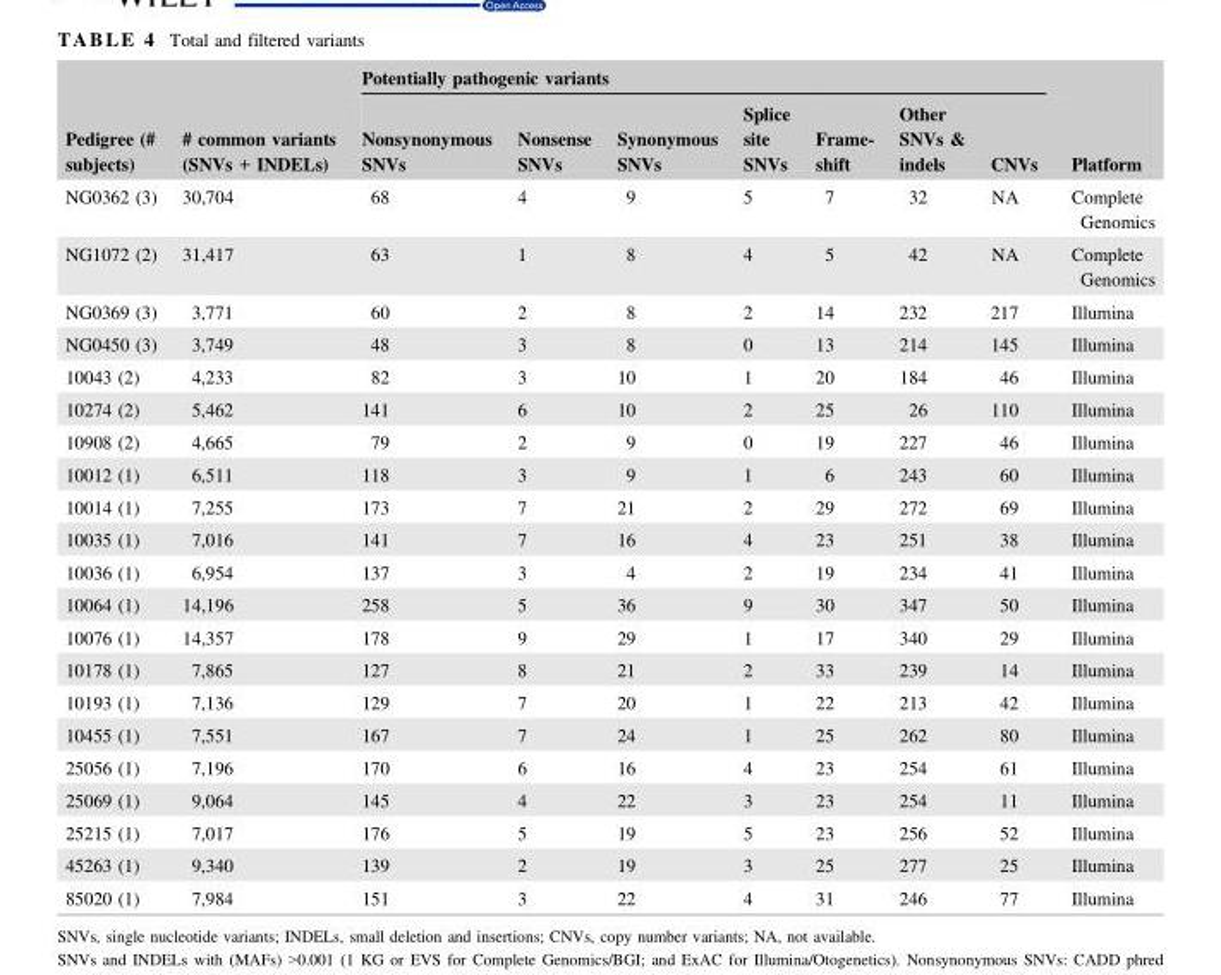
<table><thead><tr><td rowspan="2">Pedigree (# subjects)</td><td rowspan="2"># common variants (SNVs + INDELs)</td><td colspan="7">Potentially pathogenic variants</td><td rowspan="2">Platform</td></tr><tr><td>Nonsynonymous SNVs</td><td>Nonsense SNVs</td><td>Synonymous SNVs</td><td>Splice site SNVs</td><td>Frame- shift</td><td>Other SNVs &amp; indels</td><td>CNVs</td></tr></thead><tbody><tr><td>NG0362 (3)</td><td>30,704</td><td>68</td><td>4</td><td>9</td><td>5</td><td>7</td><td>32</td><td>NA</td><td>Complete Genomics</td></tr><tr><td>NG1072 (2)</td><td>31,417</td><td>63</td><td>1</td><td>8</td><td>4</td><td>5</td><td>42</td><td>NA</td><td>Complete Genomics</td></tr><tr><td>NG0369 (3)</td><td>3,771</td><td>60</td><td>2</td><td>8</td><td>2</td><td>14</td><td>232</td><td>217</td><td>Illumina</td></tr><tr><td>NG0450 (3)</td><td>3,749</td><td>48</td><td>3</td><td>8</td><td>0</td><td>13</td><td>214</td><td>145</td><td>Illumina</td></tr><tr><td>10043 (2)</td><td>4,233</td><td>82</td><td>3</td><td>10</td><td>1</td><td>20</td><td>184</td><td>46</td><td>Illumina</td></tr><tr><td>10274 (2)</td><td>5,462</td><td>141</td><td>6</td><td>10</td><td>2</td><td>25</td><td>26</td><td>110</td><td>Illumina</td></tr><tr><td>10908 (2)</td><td>4,665</td><td>79</td><td>2</td><td>9</td><td>0</td><td>19</td><td>227</td><td>46</td><td>Illumina</td></tr><tr><td>10012 (1)</td><td>6,511</td><td>118</td><td>3</td><td>9</td><td>1</td><td>6</td><td>243</td><td>60</td><td>Illumina</td></tr><tr><td>10014 (1)</td><td>7,255</td><td>173</td><td>7</td><td>21</td><td>2</td><td>29</td><td>272</td><td>69</td><td>Illumina</td></tr><tr><td>10035 (1)</td><td>7,016</td><td>141</td><td>7</td><td>16</td><td>4</td><td>23</td><td>251</td><td>38</td><td>Illumina</td></tr><tr><td>10036 (1)</td><td>6,954</td><td>137</td><td>3</td><td>4</td><td>2</td><td>19</td><td>234</td><td>41</td><td>Illumina</td></tr><tr><td>10064 (1)</td><td>14,196</td><td>258</td><td>5</td><td>36</td><td>9</td><td>30</td><td>347</td><td>50</td><td>Illumina</td></tr><tr><td>10076 (1)</td><td>14,357</td><td>178</td><td>9</td><td>29</td><td>1</td><td>17</td><td>340</td><td>29</td><td>Illumina</td></tr><tr><td>10178 (1)</td><td>7,865</td><td>127</td><td>8</td><td>21</td><td>2</td><td>33</td><td>239</td><td>14</td><td>Illumina</td></tr><tr><td>10193 (1)</td><td>7,136</td><td>129</td><td>7</td><td>20</td><td>1</td><td>22</td><td>213</td><td>42</td><td>Illumina</td></tr><tr><td>10455 (1)</td><td>7,551</td><td>167</td><td>7</td><td>24</td><td>1</td><td>25</td><td>262</td><td>80</td><td>Illumina</td></tr><tr><td>25056 (1)</td><td>7,196</td><td>170</td><td>6</td><td>16</td><td>4</td><td>23</td><td>254</td><td>61</td><td>Illumina</td></tr><tr><td>25069 (1)</td><td>9,064</td><td>145</td><td>4</td><td>22</td><td>3</td><td>23</td><td>254</td><td>11</td><td>Illumina</td></tr><tr><td>25215 (1)</td><td>7,017</td><td>176</td><td>5</td><td>19</td><td>5</td><td>23</td><td>256</td><td>52</td><td>Illumina</td></tr><tr><td>45263 (1)</td><td>9,340</td><td>139</td><td>2</td><td>19</td><td>3</td><td>25</td><td>277</td><td>25</td><td>Illumina</td></tr><tr><td>85020 (1)</td><td>7,984</td><td>151</td><td>3</td><td>22</td><td>4</td><td>31</td><td>246</td><td>77</td><td>Illumina</td></tr></tbody></table>